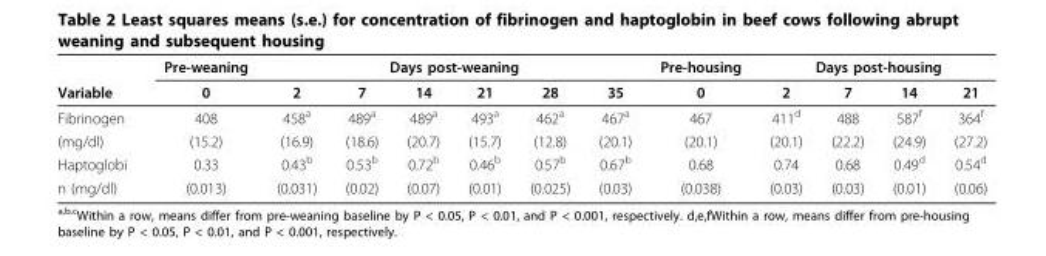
<table><thead><tr><td rowspan="2">Variable</td><td rowspan="2">Pre-weaning 0</td><td colspan="6">Days post-weaning</td><td rowspan="2">Pre-housing 0</td><td colspan="4">Days post-housing</td></tr><tr><td>2</td><td>7</td><td>14</td><td>21</td><td>28</td><td>35</td><td>2</td><td>7</td><td>14</td><td>21</td></tr></thead><tbody><tr><td>Fibrinogen</td><td>408</td><td>458<sup>a</sup></td><td>489<sup>a</sup></td><td>489<sup>a</sup></td><td>493<sup>a</sup></td><td>462<sup>a</sup></td><td>467<sup>a</sup></td><td>467</td><td>411<sup>d</sup></td><td>488</td><td>587<sup>f</sup></td><td>364<sup>f</sup></td></tr><tr><td>(mg/dl)</td><td>(15.2)</td><td>(16.9)</td><td>(18.6)</td><td>(20.7)</td><td>(15.7)</td><td>(12.8)</td><td>(20.1)</td><td>(20.1)</td><td>(20.1)</td><td>(22.2)</td><td>(24.9)</td><td>(27.2)</td></tr><tr><td>Haptoglobi</td><td>0.33</td><td>0.43<sup>b</sup></td><td>0.53<sup>b</sup></td><td>0.72<sup>b</sup></td><td>0.46<sup>b</sup></td><td>0.57<sup>b</sup></td><td>0.67<sup>b</sup></td><td>0.68</td><td>0.74</td><td>0.68</td><td>0.49<sup>d</sup></td><td>0.54<sup>d</sup></td></tr><tr><td>n (mg/dl)</td><td>(0.013)</td><td>(0.031)</td><td>(0.02)</td><td>(0.07)</td><td>(0.01)</td><td>(0.025)</td><td>(0.03)</td><td>(0.038)</td><td>(0.03)</td><td>(0.03)</td><td>(0.01)</td><td>(0.06)</td></tr></tbody></table>